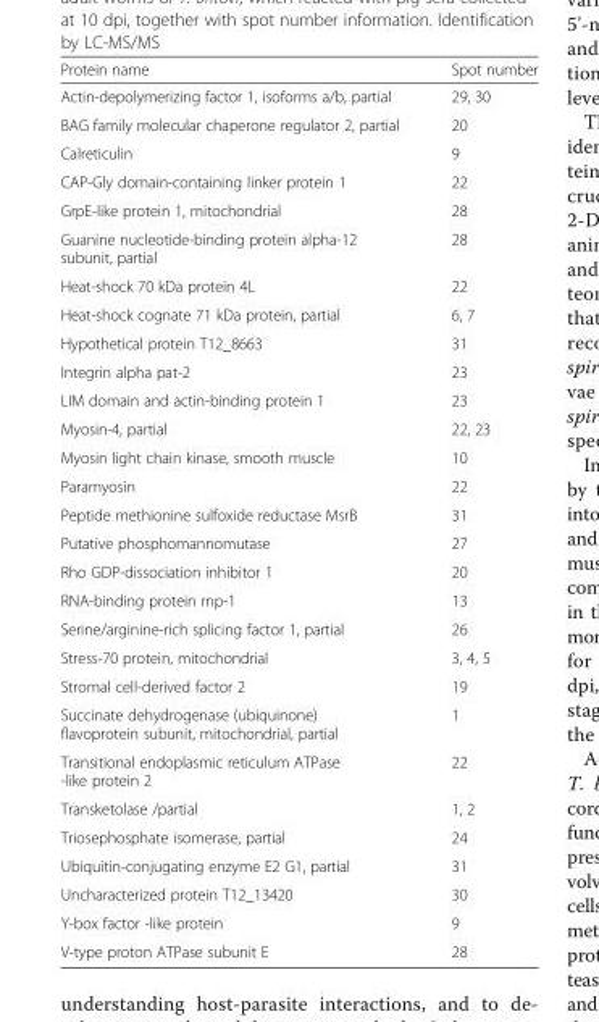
<table><thead><tr><td>Protein name</td><td>Spot number</td></tr></thead><tbody><tr><td>Actin-depolymerizing factor 1, isoforms a/b, partial</td><td>29, 30</td></tr><tr><td>BAG family molecular chaperone regulator 2, partial</td><td>20</td></tr><tr><td>Calreticulin</td><td>9</td></tr><tr><td>CAP-Gly domain-containing linker protein 1</td><td>22</td></tr><tr><td>GrpE-like protein 1, mitochondrial</td><td>28</td></tr><tr><td>Guanine nucleotide-binding protein alpha-12 subunit, partial</td><td>28</td></tr><tr><td>Heat-shock 70 kDa protein 4L</td><td>22</td></tr><tr><td>Heat-shock cognate 71 kDa protein, partial</td><td>6, 7</td></tr><tr><td>Hypothetical protein T12_8663</td><td>31</td></tr><tr><td>Integrin alpha pat-2</td><td>23</td></tr><tr><td>LIM domain and actin-binding protein 1</td><td>23</td></tr><tr><td>Myosin-4, partial</td><td>22, 23</td></tr><tr><td>Myosin light chain kinase, smooth muscle</td><td>10</td></tr><tr><td>Paramyosin</td><td>22</td></tr><tr><td>Peptide methionine sulfoxide reductase MsrB</td><td>31</td></tr><tr><td>Putative phosphomannomutase</td><td>27</td></tr><tr><td>Rho GDP-dissociation inhibitor 1</td><td>20</td></tr><tr><td>RNA-binding protein rnp-1</td><td>13</td></tr><tr><td>Serine/arginine-rich splicing factor 1, partial</td><td>26</td></tr><tr><td>Stress-70 protein, mitochondrial</td><td>3, 4, 5</td></tr><tr><td>Stromal cell-derived factor 2</td><td>19</td></tr><tr><td>Succinate dehydrogenase (ubiquinone) flavoprotein subunit, mitochondrial, partial</td><td>1</td></tr><tr><td>Transitional endoplasmic reticulum ATPase -like protein 2</td><td>22</td></tr><tr><td>Transketolase /partial</td><td>1, 2</td></tr><tr><td>Triosephosphate isomerase, partial</td><td>24</td></tr><tr><td>Ubiquitin-conjugating enzyme E2 G1, partial</td><td>31</td></tr><tr><td>Uncharacterized protein T12_13420</td><td>30</td></tr><tr><td>Y-box factor -like protein</td><td>9</td></tr><tr><td>V-type proton ATPase subunit E</td><td>28</td></tr></tbody></table>